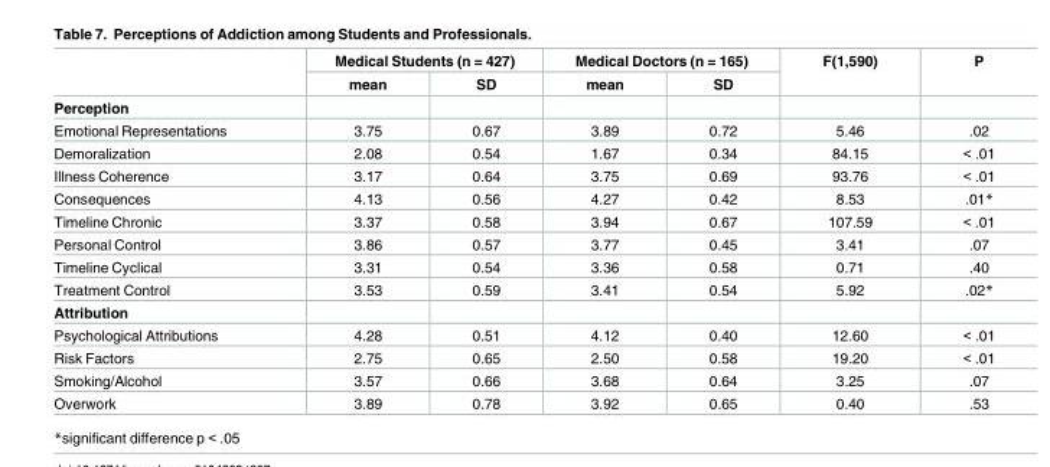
<table><thead><tr><td rowspan="2"></td><td colspan="2">Medical Students (n = 427)</td><td colspan="2">Medical Doctors (n = 165)</td><td rowspan="2">F(1,590)</td><td rowspan="2">P</td></tr><tr><td>mean</td><td>SD</td><td>mean</td><td>SD</td></tr></thead><tbody><tr><td colspan="7">Perception</td></tr><tr><td>Emotional Representations</td><td>3.75</td><td>0.67</td><td>3.89</td><td>0.72</td><td>5.46</td><td>.02</td></tr><tr><td>Demoralization</td><td>2.08</td><td>0.54</td><td>1.67</td><td>0.34</td><td>84.15</td><td>&lt; .01</td></tr><tr><td>Illness Coherence</td><td>3.17</td><td>0.64</td><td>3.75</td><td>0.69</td><td>93.76</td><td>&lt; .01</td></tr><tr><td>Consequences</td><td>4.13</td><td>0.56</td><td>4.27</td><td>0.42</td><td>8.53</td><td>.01*</td></tr><tr><td>Timeline Chronic</td><td>3.37</td><td>0.58</td><td>3.94</td><td>0.67</td><td>107.59</td><td>&lt; .01</td></tr><tr><td>Personal Control</td><td>3.86</td><td>0.57</td><td>3.77</td><td>0.45</td><td>3.41</td><td>.07</td></tr><tr><td>Timeline Cyclical</td><td>3.31</td><td>0.54</td><td>3.36</td><td>0.58</td><td>0.71</td><td>.40</td></tr><tr><td>Treatment Control</td><td>3.53</td><td>0.59</td><td>3.41</td><td>0.54</td><td>5.92</td><td>.02*</td></tr><tr><td colspan="7">Attribution</td></tr><tr><td>Psychological Attributions</td><td>4.28</td><td>0.51</td><td>4.12</td><td>0.40</td><td>12.60</td><td>&lt; .01</td></tr><tr><td>Risk Factors</td><td>2.75</td><td>0.65</td><td>2.50</td><td>0.58</td><td>19.20</td><td>&lt; .01</td></tr><tr><td>Smoking/Alcohol</td><td>3.57</td><td>0.66</td><td>3.68</td><td>0.64</td><td>3.25</td><td>.07</td></tr><tr><td>Overwork</td><td>3.89</td><td>0.78</td><td>3.92</td><td>0.65</td><td>0.40</td><td>.53</td></tr></tbody></table>